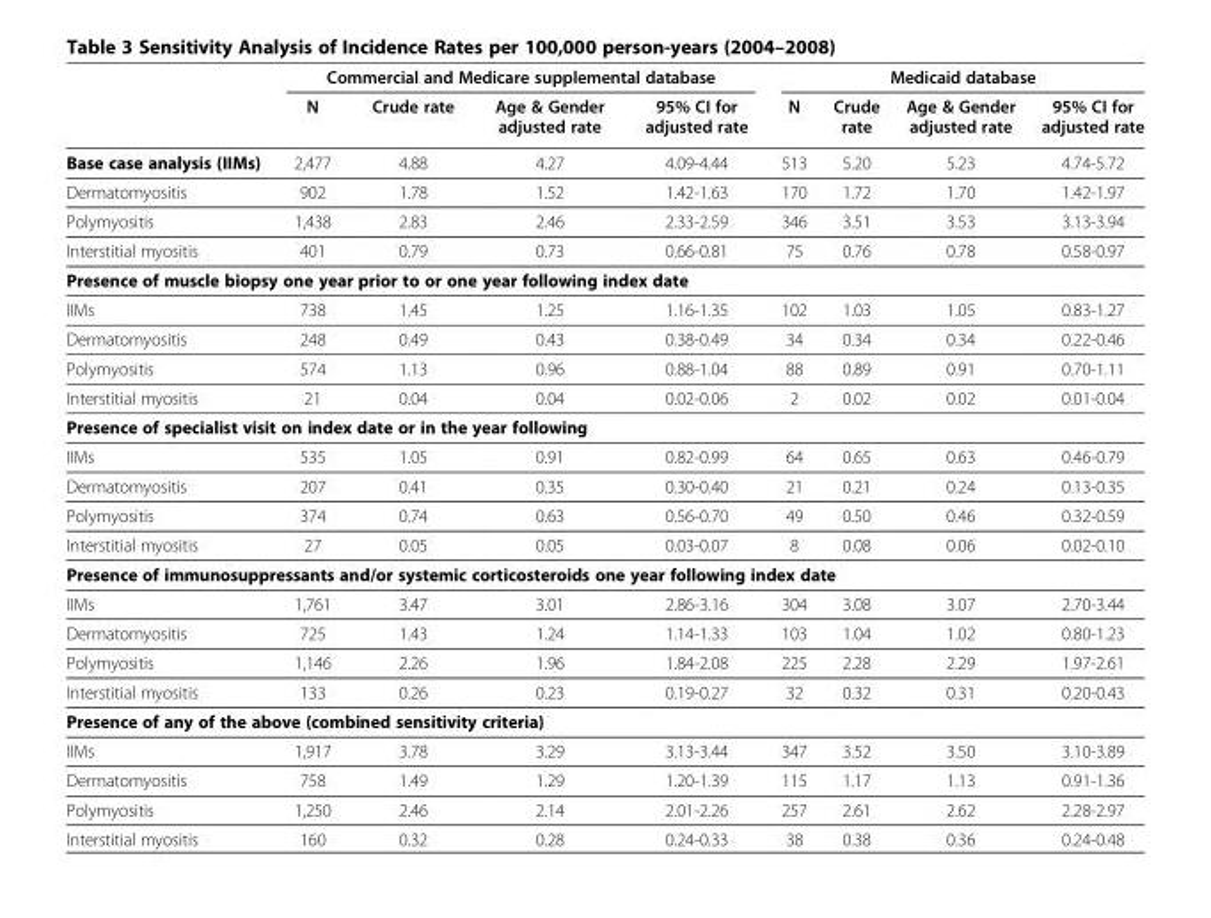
<table><thead><tr><td rowspan="2"></td><td colspan="4">Commercial and Medicare supplemental database</td><td colspan="4">Medicaid database</td></tr><tr><td>N</td><td>Crude rate</td><td>Age &amp; Gender adjusted rate</td><td>95% CI for adjusted rate</td><td>N</td><td>Crude rate</td><td>Age &amp; Gender adjusted rate</td><td>95% CI for adjusted rate</td></tr></thead><tbody><tr><td>Base case analysis (IIMs)</td><td>2,477</td><td>4.88</td><td>4.27</td><td>4.09-4.44</td><td>513</td><td>5.20</td><td>5.23</td><td>4.74-5.72</td></tr><tr><td>Dermatomyositis</td><td>902</td><td>1.78</td><td>1.52</td><td>1.42-1.63</td><td>170</td><td>1.72</td><td>1.70</td><td>1.42-1.97</td></tr><tr><td>Polymyositis</td><td>1,438</td><td>2.83</td><td>2.46</td><td>2.33-2.59</td><td>346</td><td>3.51</td><td>3.53</td><td>3.13-3.94</td></tr><tr><td>Interstitial myositis</td><td>401</td><td>0.79</td><td>0.73</td><td>0.66-0.81</td><td>75</td><td>0.76</td><td>0.78</td><td>0.58-0.97</td></tr><tr><td colspan="9">Presence of muscle biopsy one year prior to or one year following index date</td></tr><tr><td>IIMs</td><td>738</td><td>1.45</td><td>1.25</td><td>1.16-1.35</td><td>102</td><td>1.03</td><td>1.05</td><td>0.83-1.27</td></tr><tr><td>Dermatomyositis</td><td>248</td><td>0.49</td><td>0.43</td><td>0.38-0.49</td><td>34</td><td>0.34</td><td>0.34</td><td>0.22-0.46</td></tr><tr><td>Polymyositis</td><td>574</td><td>1.13</td><td>0.96</td><td>0.88-1.04</td><td>88</td><td>0.89</td><td>0.91</td><td>0.70-1.11</td></tr><tr><td>Interstitial myositis</td><td>21</td><td>0.04</td><td>0.04</td><td>0.02-0.06</td><td>2</td><td>0.02</td><td>0.02</td><td>0.01-0.04</td></tr><tr><td colspan="9">Presence of specialist visit on index date or in the year following</td></tr><tr><td>IIMs</td><td>535</td><td>1.05</td><td>0.91</td><td>0.82-0.99</td><td>64</td><td>0.65</td><td>0.63</td><td>0.46-0.79</td></tr><tr><td>Dermatomyositis</td><td>207</td><td>0.41</td><td>0.35</td><td>0.30-0.40</td><td>21</td><td>0.21</td><td>0.24</td><td>0.13-0.35</td></tr><tr><td>Polymyositis</td><td>374</td><td>0.74</td><td>0.63</td><td>0.56-0.70</td><td>49</td><td>0.50</td><td>0.46</td><td>0.32-0.59</td></tr><tr><td>Interstitial myositis</td><td>27</td><td>0.05</td><td>0.05</td><td>0.03-0.07</td><td>8</td><td>0.08</td><td>0.06</td><td>0.02-0.10</td></tr><tr><td colspan="9">Presence of immunosuppressants and/or systemic corticosteroids one year following index date</td></tr><tr><td>IIMs</td><td>1,761</td><td>3.47</td><td>3.01</td><td>2.86-3.16</td><td>304</td><td>3.08</td><td>3.07</td><td>2.70-3.44</td></tr><tr><td>Dermatomyositis</td><td>725</td><td>1.43</td><td>1.24</td><td>1.14-1.33</td><td>103</td><td>1.04</td><td>1.02</td><td>0.80-1.23</td></tr><tr><td>Polymyositis</td><td>1,146</td><td>2.26</td><td>1.96</td><td>1.84-2.08</td><td>225</td><td>2.28</td><td>2.29</td><td>1.97-2.61</td></tr><tr><td>Interstitial myositis</td><td>133</td><td>0.26</td><td>0.23</td><td>0.19-0.27</td><td>32</td><td>0.32</td><td>0.31</td><td>0.20-0.43</td></tr><tr><td colspan="9">Presence of any of the above (combined sensitivity criteria)</td></tr><tr><td>IIMs</td><td>1,917</td><td>3.78</td><td>3.29</td><td>3.13-3.44</td><td>347</td><td>3.52</td><td>3.50</td><td>3.10-3.89</td></tr><tr><td>Dermatomyositis</td><td>758</td><td>1.49</td><td>1.29</td><td>1.20-1.39</td><td>115</td><td>1.17</td><td>1.13</td><td>0.91-1.36</td></tr><tr><td>Polymyositis</td><td>1,250</td><td>2.46</td><td>2.14</td><td>2.01-2.26</td><td>257</td><td>2.61</td><td>2.62</td><td>2.28-2.97</td></tr><tr><td>Interstitial myositis</td><td>160</td><td>0.32</td><td>0.28</td><td>0.24-0.33</td><td>38</td><td>0.38</td><td>0.36</td><td>0.24-0.48</td></tr></tbody></table>